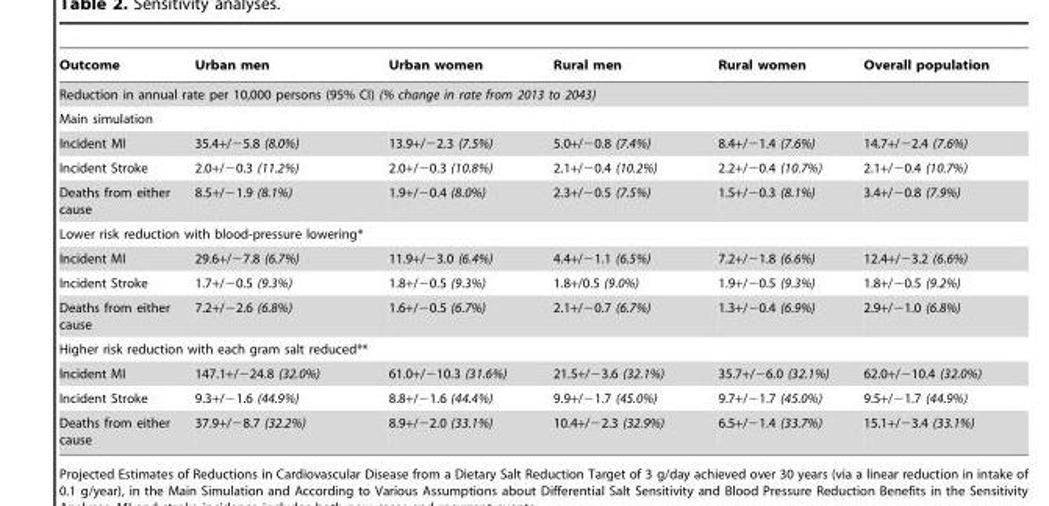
<table><thead><tr><td>Outcome</td><td>Urban men</td><td>Urban women</td><td>Rural men</td><td>Rural women</td><td>Overall population</td></tr></thead><tbody><tr><td colspan="6">Reduction in annual rate per 10,000 persons (95% CI) (% change in rate from 2013 to 2043)</td></tr><tr><td colspan="6">Main simulation</td></tr><tr><td>Incident MI</td><td>35.4+/−5.8 (8.0%)</td><td>13.9+/−2.3 (7.5%)</td><td>5.0+/−0.8 (7.4%)</td><td>8.4+/−1.4 (7.6%)</td><td>14.7+/−2.4 (7.6%)</td></tr><tr><td>Incident Stroke</td><td>2.0+/−0.3 (11.2%)</td><td>2.0+/−0.3 (10.8%)</td><td>2.1+/−0.4 (10.2%)</td><td>2.2+/−0.4 (10.7%)</td><td>2.1+/−0.4 (10.7%)</td></tr><tr><td>Deaths from either cause</td><td>8.5+/−1.9 (8.1%)</td><td>1.9+/−0.4 (8.0%)</td><td>2.3+/−0.5 (7.5%)</td><td>1.5+/−0.3 (8.1%)</td><td>3.4+/−0.8 (7.9%)</td></tr><tr><td colspan="6">Lower risk reduction with blood-pressure lowering*</td></tr><tr><td>Incident MI</td><td>29.6+/−7.8 (6.7%)</td><td>11.9+/−3.0 (6.4%)</td><td>4.4+/−1.1 (6.5%)</td><td>7.2+/−1.8 (6.6%)</td><td>12.4+/−3.2 (6.6%)</td></tr><tr><td>Incident Stroke</td><td>1.7+/−0.5 (9.3%)</td><td>1.8+/−0.5 (9.3%)</td><td>1.8+/0.5 (9.0%)</td><td>1.9+/−0.5 (9.3%)</td><td>1.8+/−0.5 (9.2%)</td></tr><tr><td>Deaths from either cause</td><td>7.2+/−2.6 (6.8%)</td><td>1.6+/−0.5 (6.7%)</td><td>2.1+/−0.7 (6.7%)</td><td>1.3+/−0.4 (6.9%)</td><td>2.9+/−1.0 (6.8%)</td></tr><tr><td colspan="6">Higher risk reduction with each gram salt reduced**</td></tr><tr><td>Incident MI</td><td>147.1+/−24.8 (32.0%)</td><td>61.0+/−10.3 (31.6%)</td><td>21.5+/−3.6 (32.1%)</td><td>35.7+/−6.0 (32.1%)</td><td>62.0+/−10.4 (32.0%)</td></tr><tr><td>Incident Stroke</td><td>9.3+/−1.6 (44.9%)</td><td>8.8+/−1.6 (44.4%)</td><td>9.9+/−1.7 (45.0%)</td><td>9.7+/−1.7 (45.0%)</td><td>9.5+/−1.7 (44.9%)</td></tr><tr><td>Deaths from either cause</td><td>37.9+/−8.7 (32.2%)</td><td>8.9+/−2.0 (33.1%)</td><td>10.4+/−2.3 (32.9%)</td><td>6.5+/−1.4 (33.7%)</td><td>15.1+/−3.4 (33.1%)</td></tr></tbody></table>